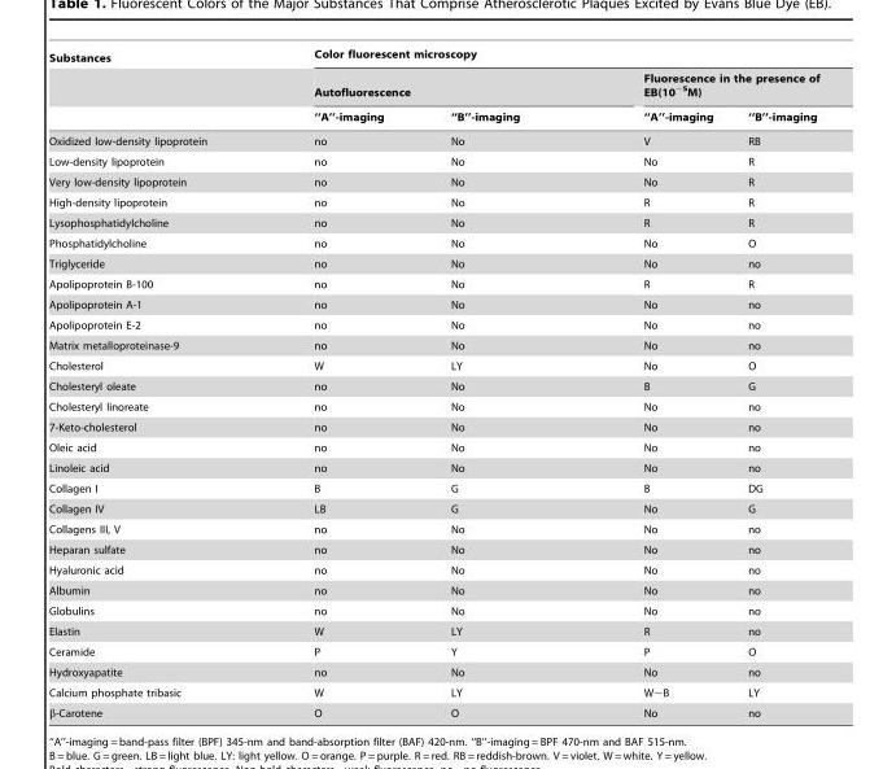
<table><thead><tr><td rowspan="3">Substances</td><td colspan="4">Color fluorescent microscopy</td></tr><tr><td colspan="2">Autofluorescence</td><td colspan="2">Fluorescence in the presence of EB(10<sup>−5</sup>M)</td></tr><tr><td>‘‘A’’-imaging</td><td>‘‘B’’-imaging</td><td>‘‘A’’-imaging</td><td>‘‘B’’-imaging</td></tr></thead><tbody><tr><td>Oxidized low-density lipoprotein</td><td>no</td><td>No</td><td>V</td><td>RB</td></tr><tr><td>Low-density lipoprotein</td><td>no</td><td>No</td><td>No</td><td>R</td></tr><tr><td>Very low-density lipoprotein</td><td>no</td><td>No</td><td>No</td><td>R</td></tr><tr><td>High-density lipoprotein</td><td>no</td><td>No</td><td>R</td><td>R</td></tr><tr><td>Lysophosphatidylcholine</td><td>no</td><td>No</td><td>R</td><td>R</td></tr><tr><td>Phosphatidylcholine</td><td>no</td><td>No</td><td>No</td><td>O</td></tr><tr><td>Triglyceride</td><td>no</td><td>No</td><td>No</td><td>no</td></tr><tr><td>Apolipoprotein B-100</td><td>no</td><td>No</td><td>R</td><td>R</td></tr><tr><td>Apolipoprotein A-1</td><td>no</td><td>No</td><td>No</td><td>no</td></tr><tr><td>Apolipoprotein E-2</td><td>no</td><td>No</td><td>No</td><td>no</td></tr><tr><td>Matrix metalloproteinase-9</td><td>no</td><td>No</td><td>No</td><td>no</td></tr><tr><td>Cholesterol</td><td>W</td><td>LY</td><td>No</td><td>O</td></tr><tr><td>Cholesteryl oleate</td><td>no</td><td>No</td><td>B</td><td>G</td></tr><tr><td>Cholesteryl linoreate</td><td>no</td><td>No</td><td>No</td><td>no</td></tr><tr><td>7-Keto-cholesterol</td><td>no</td><td>No</td><td>No</td><td>no</td></tr><tr><td>Oleic acid</td><td>no</td><td>No</td><td>No</td><td>no</td></tr><tr><td>Linoleic acid</td><td>no</td><td>No</td><td>No</td><td>no</td></tr><tr><td>Collagen I</td><td>B</td><td>G</td><td>B</td><td>DG</td></tr><tr><td>Collagen IV</td><td>LB</td><td>G</td><td>No</td><td>G</td></tr><tr><td>Collagens III, V</td><td>no</td><td>No</td><td>No</td><td>no</td></tr><tr><td>Heparan sulfate</td><td>no</td><td>No</td><td>No</td><td>no</td></tr><tr><td>Hyaluronic acid</td><td>no</td><td>No</td><td>No</td><td>no</td></tr><tr><td>Albumin</td><td>no</td><td>No</td><td>No</td><td>no</td></tr><tr><td>Globulins</td><td>no</td><td>No</td><td>No</td><td>no</td></tr><tr><td>Elastin</td><td>W</td><td>LY</td><td>R</td><td>no</td></tr><tr><td>Ceramide</td><td>P</td><td>Y</td><td>P</td><td>O</td></tr><tr><td>Hydroxyapatite</td><td>no</td><td>No</td><td>No</td><td>no</td></tr><tr><td>Calcium phosphate tribasic</td><td>W</td><td>LY</td><td>W∼B</td><td>LY</td></tr><tr><td>β-Carotene</td><td>O</td><td>O</td><td>No</td><td>no</td></tr></tbody></table>